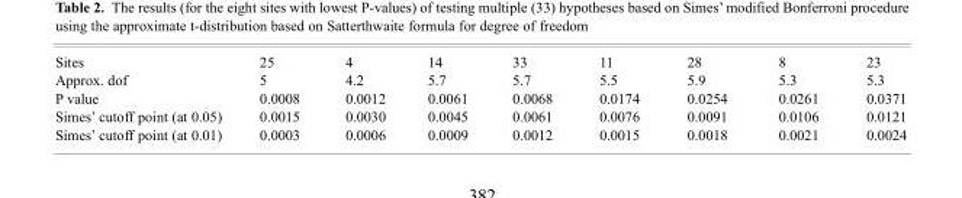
<table><tbody><tr><td>Sites</td><td>25</td><td>4</td><td>14</td><td>33</td><td>11</td><td>28</td><td>8</td><td>23</td></tr><tr><td>Approx. dof</td><td>5</td><td>4.2</td><td>5.7</td><td>5.7</td><td>5.5</td><td>5.9</td><td>5.3</td><td>5.3</td></tr><tr><td>P value</td><td>0.0008</td><td>0.0012</td><td>0.0061</td><td>0.0068</td><td>0.0174</td><td>0.0254</td><td>0.0261</td><td>0.0371</td></tr><tr><td>Simes’ cutoff point (at 0.05)</td><td>0.0015</td><td>0.0030</td><td>0.0045</td><td>0.0061</td><td>0.0076</td><td>0.0091</td><td>0.0106</td><td>0.0121</td></tr><tr><td>Simes’ cutoff point (at 0.01)</td><td>0.0003</td><td>0.0006</td><td>0.0009</td><td>0.0012</td><td>0.0015</td><td>0.0018</td><td>0.0021</td><td>0.0024</td></tr></tbody></table>